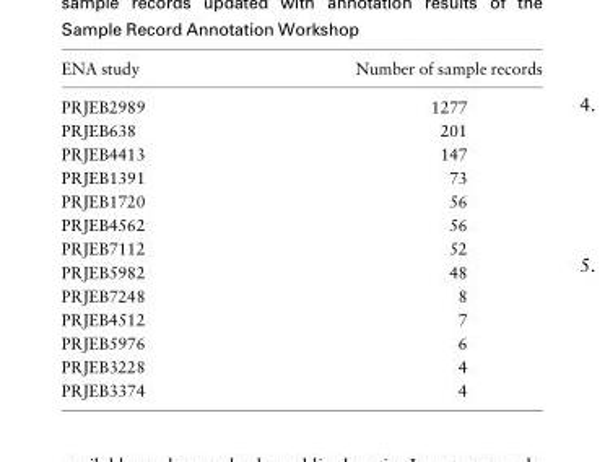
<table><thead><tr><td>ENA study</td><td>Number of sample records</td></tr></thead><tbody><tr><td>PRJEB2989</td><td>1277</td></tr><tr><td>PRJEB638</td><td>201</td></tr><tr><td>PRJEB4413</td><td>147</td></tr><tr><td>PRJEB1391</td><td>73</td></tr><tr><td>PRJEB1720</td><td>56</td></tr><tr><td>PRJEB4562</td><td>56</td></tr><tr><td>PRJEB7112</td><td>52</td></tr><tr><td>PRJEB5982</td><td>48</td></tr><tr><td>PRJEB7248</td><td>8</td></tr><tr><td>PRJEB4512</td><td>7</td></tr><tr><td>PRJEB5976</td><td>6</td></tr><tr><td>PRJEB3228</td><td>4</td></tr><tr><td>PRJEB3374</td><td>4</td></tr></tbody></table>